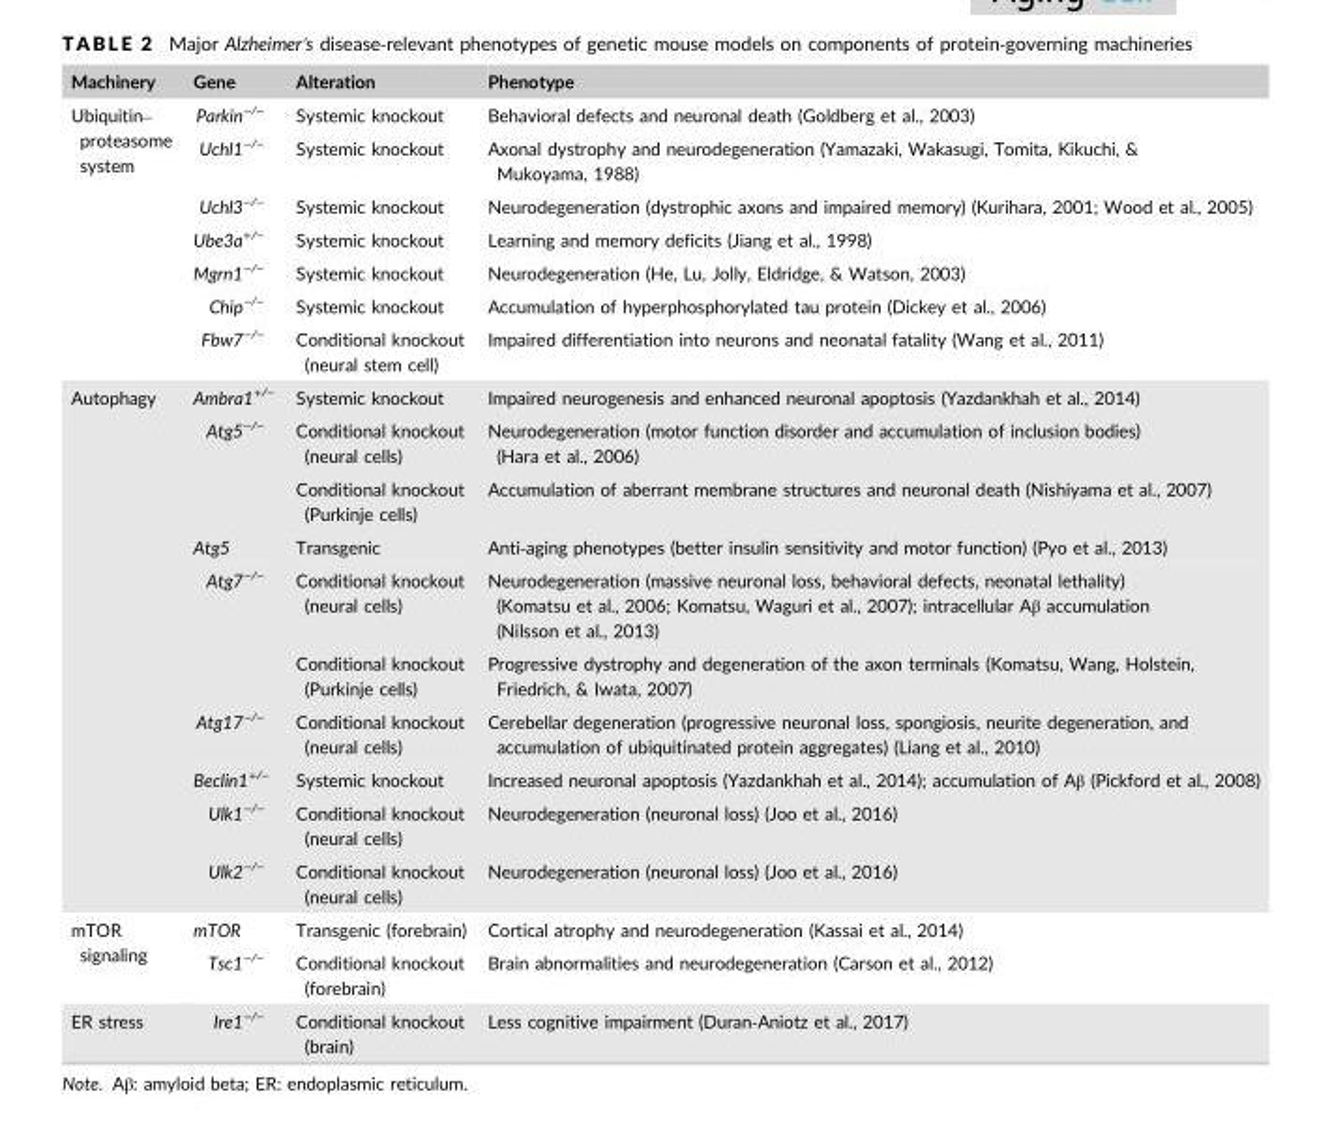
<table><thead><tr><td>Machinery</td><td>Gene</td><td>Alteration</td><td>Phenotype</td></tr></thead><tbody><tr><td rowspan="7">Ubiquitin– proteasome system</td><td>Parkin<sup>−/−</sup></td><td>Systemic knockout</td><td>Behavioral defects and neuronal death (Goldberg et al., 2003)</td></tr><tr><td>Uchl1<sup>−/−</sup></td><td>Systemic knockout</td><td>Axonal dystrophy and neurodegeneration (Yamazaki, Wakasugi, Tomita, Kikuchi, &amp; Mukoyama, 1988)</td></tr><tr><td>Uchl3<sup>−/−</sup></td><td>Systemic knockout</td><td>Neurodegeneration (dystrophic axons and impaired memory) (Kurihara, 2001; Wood et al., 2005)</td></tr><tr><td>Ube3a<sup>+/−</sup></td><td>Systemic knockout</td><td>Learning and memory deficits (Jiang et al., 1998)</td></tr><tr><td>Mgrn1<sup>−/−</sup></td><td>Systemic knockout</td><td>Neurodegeneration (He, Lu, Jolly, Eldridge, &amp; Watson, 2003)</td></tr><tr><td>Chip<sup>−/−</sup></td><td>Systemic knockout</td><td>Accumulation of hyperphosphorylated tau protein (Dickey et al., 2006)</td></tr><tr><td>Fbw7<sup>−/−</sup></td><td>Conditional knockout (neural stem cell)</td><td>Impaired differentiation into neurons and neonatal fatality (Wang et al., 2011)</td></tr><tr><td rowspan="10">Autophagy</td><td>Ambra1<sup>+/−</sup></td><td>Systemic knockout</td><td>Impaired neurogenesis and enhanced neuronal apoptosis (Yazdankhah et al., 2014)</td></tr><tr><td>Atg5<sup>−/−</sup></td><td>Conditional knockout (neural cells)</td><td>Neurodegeneration (motor function disorder and accumulation of inclusion bodies) (Hara et al., 2006)</td></tr><tr><td></td><td>Conditional knockout (Purkinje cells)</td><td>Accumulation of aberrant membrane structures and neuronal death (Nishiyama et al., 2007)</td></tr><tr><td>Atg5</td><td>Transgenic</td><td>Anti‐aging phenotypes (better insulin sensitivity and motor function) (Pyo et al., 2013)</td></tr><tr><td>Atg7<sup>−/−</sup></td><td>Conditional knockout (neural cells)</td><td>Neurodegeneration (massive neuronal loss, behavioral defects, neonatal lethality) (Komatsu et al., 2006; Komatsu, Waguri et al., 2007); intracellular Aβ accumulation (Nilsson et al., 2013)</td></tr><tr><td></td><td>Conditional knockout (Purkinje cells)</td><td>Progressive dystrophy and degeneration of the axon terminals (Komatsu, Wang, Holstein, Friedrich, &amp; Iwata, 2007)</td></tr><tr><td>Atg17<sup>−/−</sup></td><td>Conditional knockout (neural cells)</td><td>Cerebellar degeneration (progressive neuronal loss, spongiosis, neurite degeneration, and accumulation of ubiquitinated protein aggregates) (Liang et al., 2010)</td></tr><tr><td>Beclin1<sup>+/−</sup></td><td>Systemic knockout</td><td>Increased neuronal apoptosis (Yazdankhah et al., 2014); accumulation of Aβ (Pickford et al., 2008)</td></tr><tr><td>Ulk1<sup>−/−</sup></td><td>Conditional knockout (neural cells)</td><td>Neurodegeneration (neuronal loss) (Joo et al., 2016)</td></tr><tr><td>Ulk2<sup>−/−</sup></td><td>Conditional knockout (neural cells)</td><td>Neurodegeneration (neuronal loss) (Joo et al., 2016)</td></tr><tr><td rowspan="2">mTOR signaling</td><td>mTOR</td><td>Transgenic (forebrain)</td><td>Cortical atrophy and neurodegeneration (Kassai et al., 2014)</td></tr><tr><td>Tsc1<sup>−/−</sup></td><td>Conditional knockout (forebrain)</td><td>Brain abnormalities and neurodegeneration (Carson et al., 2012)</td></tr><tr><td>ER stress</td><td>Ire1<sup>−/−</sup></td><td>Conditional knockout (brain)</td><td>Less cognitive impairment (Duran‐Aniotz et al., 2017)</td></tr></tbody></table>